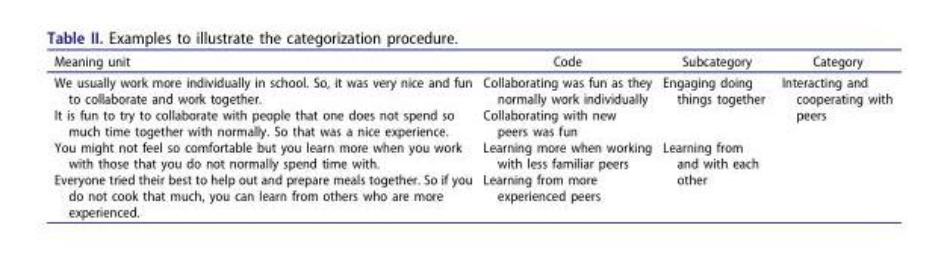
<table><thead><tr><td>Meaning unit</td><td>Code</td><td>Subcategory</td><td>Category</td></tr></thead><tbody><tr><td>We usually work more individually in school. So, it was very nice and fun to collaborate and work together.</td><td>Collaborating was fun as they normally work individually</td><td rowspan="2">Engaging doing things together</td><td rowspan="4">Interacting and cooperating with peers</td></tr><tr><td>It is fun to try to collaborate with people that one does not spend so much time together with normally. So that was a nice experience.</td><td>Collaborating with new peers was fun</td></tr><tr><td>You might not feel so comfortable but you learn more when you work with those that you do not normally spend time with.</td><td>Learning more when working with less familiar peers</td><td rowspan="2">Learning from and with each other</td></tr><tr><td>Everyone tried their best to help out and prepare meals together. So if you do not cook that much, you can learn from others who are more experienced.</td><td>Learning from more experienced peers</td></tr></tbody></table>